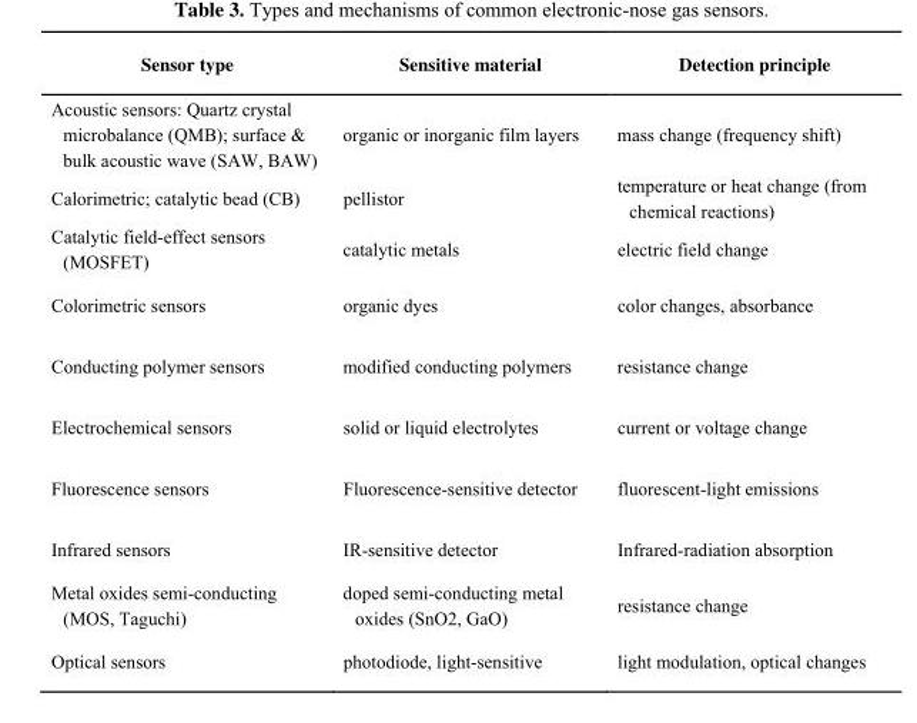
<table><thead><tr><td>Sensor type</td><td>Sensitive material</td><td>Detection principle</td></tr></thead><tbody><tr><td>Acoustic sensors: Quartz crystal microbalance (QMB); surface &amp; bulk acoustic wave (SAW, BAW)</td><td>organic or inorganic film layers</td><td>mass change (frequency shift)</td></tr><tr><td>Calorimetric; catalytic bead (CB)</td><td>pellistor</td><td>temperature or heat change (from chemical reactions)</td></tr><tr><td>Catalytic field-effect sensors (MOSFET)</td><td>catalytic metals</td><td>electric field change</td></tr><tr><td>Colorimetric sensors</td><td>organic dyes</td><td>color changes, absorbance</td></tr><tr><td>Conducting polymer sensors</td><td>modified conducting polymers</td><td>resistance change</td></tr><tr><td>Electrochemical sensors</td><td>solid or liquid electrolytes</td><td>current or voltage change</td></tr><tr><td>Fluorescence sensors</td><td>Fluorescence-sensitive detector</td><td>fluorescent-light emissions</td></tr><tr><td>Infrared sensors</td><td>IR-sensitive detector</td><td>Infrared-radiation absorption</td></tr><tr><td>Metal oxides semi-conducting (MOS, Taguchi)</td><td>doped semi-conducting metal oxides (SnO2, GaO)</td><td>resistance change</td></tr><tr><td>Optical sensors</td><td>photodiode, light-sensitive</td><td>light modulation, optical changes</td></tr></tbody></table>